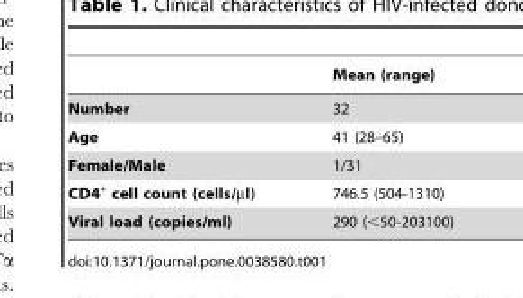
<table><thead><tr><td></td><td>Mean (range)</td></tr></thead><tbody><tr><td>Number</td><td>32</td></tr><tr><td>Age</td><td>41 (28–65)</td></tr><tr><td>Female/Male</td><td>1/31</td></tr><tr><td>CD4<sup>+</sup> cell count (cells/µl)</td><td>746.5 (504-1310)</td></tr><tr><td>Viral load (copies/ml)</td><td>290 (&lt;50-203100)</td></tr></tbody></table>